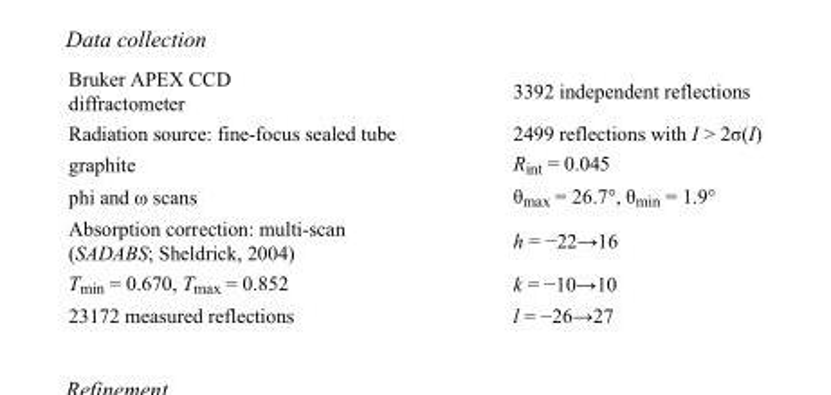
<table><tbody><tr><td>Bruker APEX CCD diffractometer</td><td>3392 independent reflections</td></tr><tr><td>Radiation source: fine-focus sealed tube</td><td>2499 reflections with I &gt; 2σ(I)</td></tr><tr><td>graphite</td><td>R<sub>int</sub> = 0.045</td></tr><tr><td>phi and ω scans</td><td>θ<sub>max</sub> = 26.7°, θ<sub>min</sub> = 1.9°</td></tr><tr><td>Absorption correction: multi-scan (SADABS; Sheldrick, 2004)</td><td>h = −22→16</td></tr><tr><td>T<sub>min</sub> = 0.670, T<sub>max</sub> = 0.852</td><td>k = −10→10</td></tr><tr><td>23172 measured reflections</td><td>l = −26→27</td></tr></tbody></table>